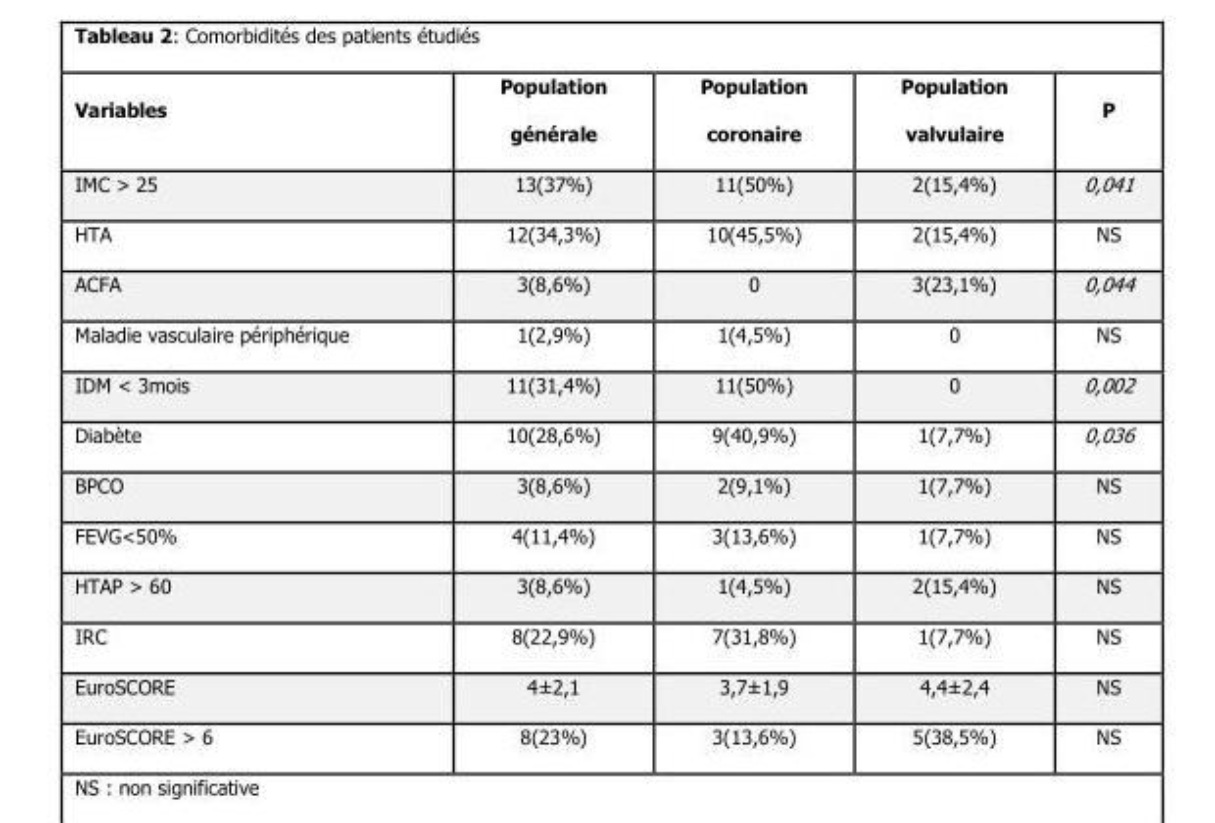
<table><thead><tr><td>Variables</td><td>Population générale</td><td>Population coronaire</td><td>Population valvulaire</td><td>P</td></tr></thead><tbody><tr><td>IMC &gt; 25</td><td>13(37%)</td><td>11(50%)</td><td>2(15,4%)</td><td>0,041</td></tr><tr><td>HTA</td><td>12(34,3%)</td><td>10(45,5%)</td><td>2(15,4%)</td><td>NS</td></tr><tr><td>ACFA</td><td>3(8,6%)</td><td>0</td><td>3(23,1%)</td><td>0,044</td></tr><tr><td>Maladie vasculaire périphérique</td><td>1(2,9%)</td><td>1(4,5%)</td><td>0</td><td>NS</td></tr><tr><td>IDM &lt; 3mois</td><td>11(31,4%)</td><td>11(50%)</td><td>0</td><td>0,002</td></tr><tr><td>Diabète</td><td>10(28,6%)</td><td>9(40,9%)</td><td>1(7,7%)</td><td>0,036</td></tr><tr><td>BPCO</td><td>3(8,6%)</td><td>2(9,1%)</td><td>1(7,7%)</td><td>NS</td></tr><tr><td>FEVG&lt;50%</td><td>4(11,4%)</td><td>3(13,6%)</td><td>1(7,7%)</td><td>NS</td></tr><tr><td>HTAP &gt; 60</td><td>3(8,6%)</td><td>1(4,5%)</td><td>2(15,4%)</td><td>NS</td></tr><tr><td>IRC</td><td>8(22,9%)</td><td>7(31,8%)</td><td>1(7,7%)</td><td>NS</td></tr><tr><td>EuroSCORE</td><td>4±2,1</td><td>3,7±1,9</td><td>4,4±2,4</td><td>NS</td></tr><tr><td>EuroSCORE &gt; 6</td><td>8(23%)</td><td>3(13,6%)</td><td>5(38,5%)</td><td>NS</td></tr></tbody></table>